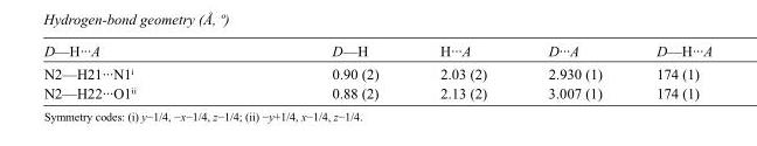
<table><tbody><tr><td>D—H···A</td><td>D—H</td><td>H···A</td><td>D···A</td><td>D—H···A</td></tr><tr><td>N2—H21···N1<sup>i</sup></td><td>0.90 (2)</td><td>2.03 (2)</td><td>2.930 (1)</td><td>174 (1)</td></tr><tr><td>N2—H22···O1<sup>ii</sup></td><td>0.88 (2)</td><td>2.13 (2)</td><td>3.007 (1)</td><td>174 (1)</td></tr></tbody></table>